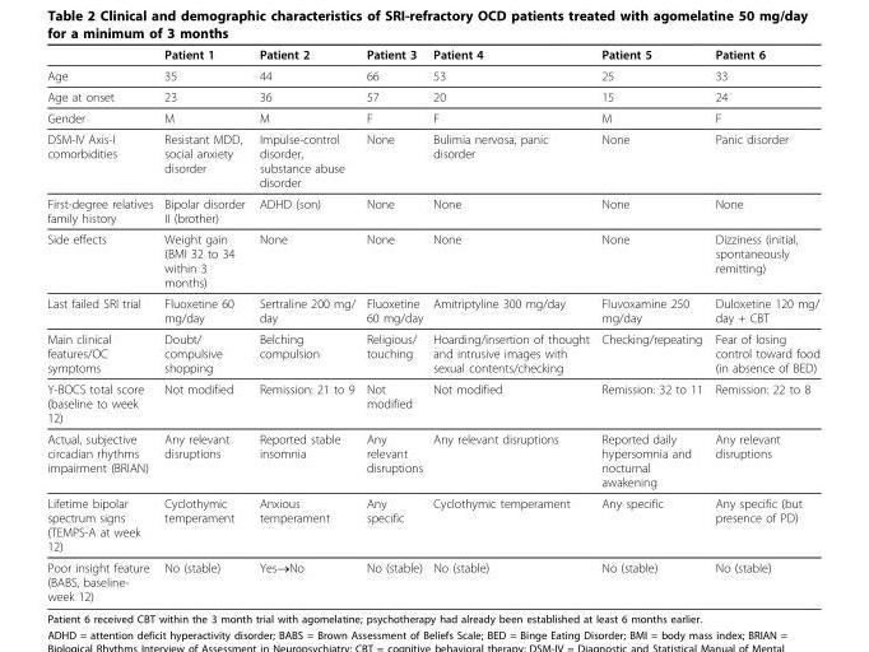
<table><thead><tr><td></td><td>Patient 1</td><td>Patient 2</td><td>Patient 3</td><td>Patient 4</td><td>Patient 5</td><td>Patient 6</td></tr></thead><tbody><tr><td>Age</td><td>35</td><td>44</td><td>66</td><td>53</td><td>25</td><td>33</td></tr><tr><td>Age at onset</td><td>23</td><td>36</td><td>57</td><td>20</td><td>15</td><td>24</td></tr><tr><td>Gender</td><td>M</td><td>M</td><td>F</td><td>F</td><td>M</td><td>F</td></tr><tr><td>DSM-IV Axis-I comorbidities</td><td>Resistant MDD, social anxiety disorder</td><td>Impulse-control disorder, substance abuse disorder</td><td>None</td><td>Bulimia nervosa, panic disorder</td><td>None</td><td>Panic disorder</td></tr><tr><td>First-degree relatives family history</td><td>Bipolar disorder II (brother)</td><td>ADHD (son)</td><td>None</td><td>None</td><td>None</td><td>None</td></tr><tr><td>Side effects</td><td>Weight gain (BMI 32 to 34 within 3 months)</td><td>None</td><td>None</td><td>None</td><td>None</td><td>Dizziness (initial, spontaneously remitting)</td></tr><tr><td>Last failed SRI trial</td><td>Fluoxetine 60 mg/day</td><td>Sertraline 200 mg/ day</td><td>Fluoxetine 60 mg/day</td><td>Amitriptyline 300 mg/day</td><td>Fluvoxamine 250 mg/day</td><td>Duloxetine 120 mg/ day + CBT</td></tr><tr><td>Main clinical features/OC symptoms</td><td>Doubt/ compulsive shopping</td><td>Belching compulsion</td><td>Religious/ touching</td><td>Hoarding/insertion of thought and intrusive images with sexual contents/checking</td><td>Checking/repeating</td><td>Fear of losing control toward food (in absence of BED)</td></tr><tr><td>Y-BOCS total score (baseline to week 12)</td><td>Not modified</td><td>Remission: 21 to 9</td><td>Not modified</td><td>Not modified</td><td>Remission: 32 to 11</td><td>Remission: 22 to 8</td></tr><tr><td>Actual, subjective circadian rhythms impairment (BRIAN)</td><td>Any relevant disruptions</td><td>Reported stable insomnia</td><td>Any relevant disruptions</td><td>Any relevant disruptions</td><td>Reported daily hypersomnia and nocturnal awakening</td><td>Any relevant disruptions</td></tr><tr><td>Lifetime bipolar spectrum signs (TEMPS-A at week 12)</td><td>Cyclothymic temperament</td><td>Anxious temperament</td><td>Any specific</td><td>Cyclothymic temperament</td><td>Any specific</td><td>Any specific (but presence of PD)</td></tr><tr><td>Poor insight feature (BABS, baseline- week 12)</td><td>No (stable)</td><td>Yes→No</td><td>No (stable)</td><td>No (stable)</td><td>No (stable)</td><td>No (stable)</td></tr></tbody></table>